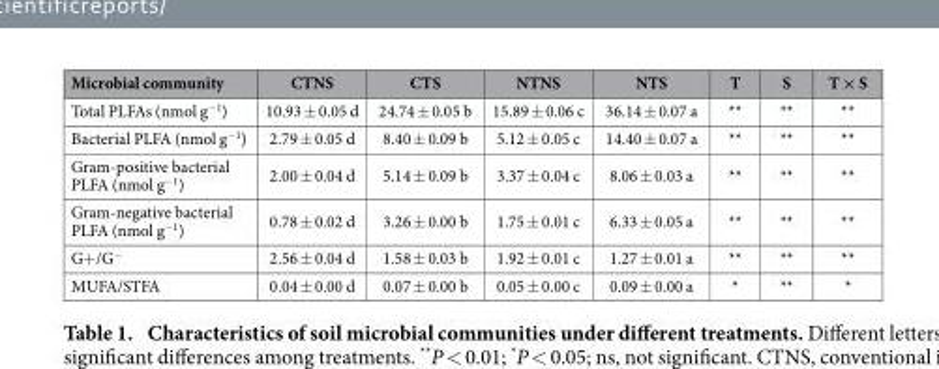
<table><thead><tr><td>Microbial community</td><td>CTNS</td><td>CTS</td><td>NTNS</td><td>NTS</td><td>T</td><td>S</td><td>T × S</td></tr></thead><tbody><tr><td>Total PLFAs (nmol g<sup>−1</sup>)</td><td>10.93 ± 0.05 d</td><td>24.74 ± 0.05 b</td><td>15.89 ± 0.06 c</td><td>36.14 ± 0.07 a</td><td>**</td><td>**</td><td>**</td></tr><tr><td>Bacterial PLFA (nmol g<sup>−1</sup>)</td><td>2.79 ± 0.05 d</td><td>8.40 ± 0.09 b</td><td>5.12 ± 0.05 c</td><td>14.40 ± 0.07 a</td><td>**</td><td>**</td><td>**</td></tr><tr><td>Gram-positive bacterial PLFA (nmol g<sup>−1</sup>)</td><td>2.00 ± 0.04 d</td><td>5.14 ± 0.09 b</td><td>3.37 ± 0.04 c</td><td>8.06 ± 0.03 a</td><td>**</td><td>**</td><td>**</td></tr><tr><td>Gram-negative bacterial PLFA (nmol g<sup>−1</sup>)</td><td>0.78 ± 0.02 d</td><td>3.26 ± 0.00 b</td><td>1.75 ± 0.01 c</td><td>6.33 ± 0.05 a</td><td>**</td><td>**</td><td>**</td></tr><tr><td>G+ /G<sup>−</sup></td><td>2.56 ± 0.04 d</td><td>1.58 ± 0.03 b</td><td>1.92 ± 0.01 c</td><td>1.27 ± 0.01 a</td><td>**</td><td>**</td><td>**</td></tr><tr><td>MUFA/STFA</td><td>0.04 ± 0.00 d</td><td>0.07 ± 0.00 b</td><td>0.05 ± 0.00 c</td><td>0.09 ± 0.00 a</td><td>*</td><td>**</td><td>*</td></tr></tbody></table>